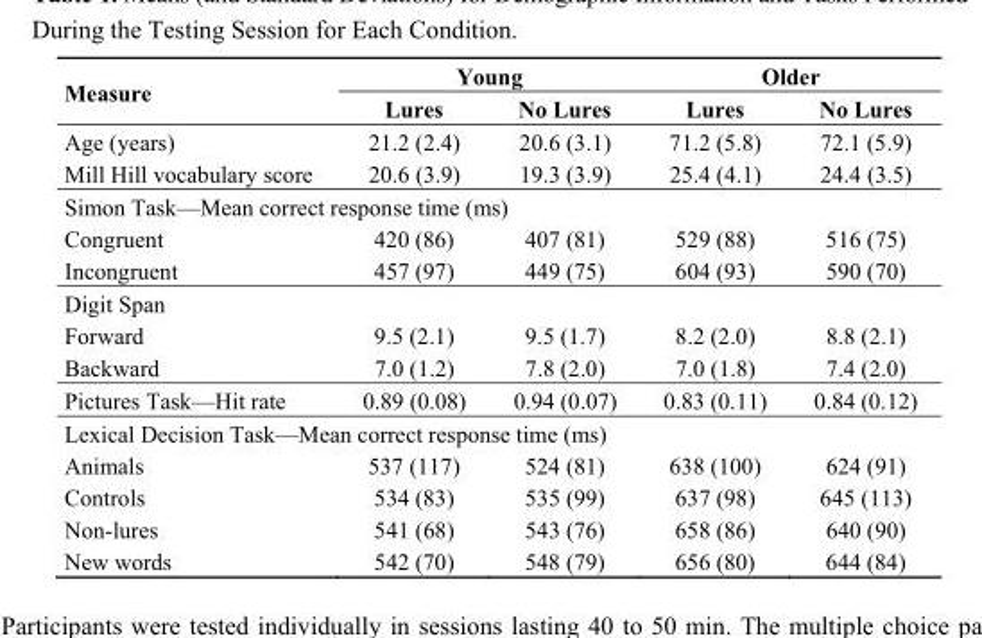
<table><thead><tr><td rowspan="2">Measure</td><td colspan="2">Young</td><td colspan="2">Older</td></tr><tr><td>Lures</td><td>No Lures</td><td>Lures</td><td>No Lures</td></tr></thead><tbody><tr><td>Age (years)</td><td>21.2 (2.4)</td><td>20.6 (3.1)</td><td>71.2 (5.8)</td><td>72.1 (5.9)</td></tr><tr><td>Mill Hill vocabulary score</td><td>20.6 (3.9)</td><td>19.3 (3.9)</td><td>25.4 (4.1)</td><td>24.4 (3.5)</td></tr><tr><td colspan="5">Simon Task—Mean correct response time (ms)</td></tr><tr><td>Congruent</td><td>420 (86)</td><td>407 (81)</td><td>529 (88)</td><td>516 (75)</td></tr><tr><td>Incongruent</td><td>457 (97)</td><td>449 (75)</td><td>604 (93)</td><td>590 (70)</td></tr><tr><td colspan="5">Digit Span</td></tr><tr><td>Forward</td><td>9.5 (2.1)</td><td>9.5 (1.7)</td><td>8.2 (2.0)</td><td>8.8 (2.1)</td></tr><tr><td>Backward</td><td>7.0 (1.2)</td><td>7.8 (2.0)</td><td>7.0 (1.8)</td><td>7.4 (2.0)</td></tr><tr><td>Pictures Task—Hit rate</td><td>0.89 (0.08)</td><td>0.94 (0.07)</td><td>0.83 (0.11)</td><td>0.84 (0.12)</td></tr><tr><td colspan="5">Lexical Decision Task—Mean correct response time (ms)</td></tr><tr><td>Animals</td><td>537 (117)</td><td>524 (81)</td><td>638 (100)</td><td>624 (91)</td></tr><tr><td>Controls</td><td>534 (83)</td><td>535 (99)</td><td>637 (98)</td><td>645 (113)</td></tr><tr><td>Non-lures</td><td>541 (68)</td><td>543 (76)</td><td>658 (86)</td><td>640 (90)</td></tr><tr><td>New words</td><td>542 (70)</td><td>548 (79)</td><td>656 (80)</td><td>644 (84)</td></tr></tbody></table>